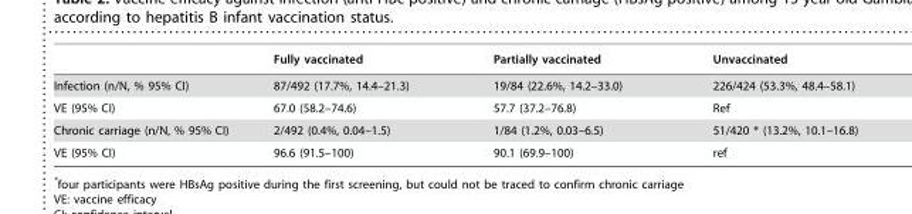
<table><thead><tr><td></td><td>Fully vaccinated</td><td>Partially vaccinated</td><td>Unvaccinated</td></tr></thead><tbody><tr><td>Infection (n/N, % 95% CI)</td><td>87/492 (17.7%, 14.4–21.3)</td><td>19/84 (22.6%, 14.2–33.0)</td><td>226/424 (53.3%, 48.4–58.1)</td></tr><tr><td>VE (95% CI)</td><td>67.0 (58.2–74.6)</td><td>57.7 (37.2–76.8)</td><td>Ref</td></tr><tr><td>Chronic carriage (n/N, % 95% CI)</td><td>2/492 (0.4%, 0.04–1.5)</td><td>1/84 (1.2%, 0.03–6.5)</td><td>51/420 * (13.2%, 10.1–16.8)</td></tr><tr><td>VE (95% CI)</td><td>96.6 (91.5–100)</td><td>90.1 (69.9–100)</td><td>ref</td></tr></tbody></table>